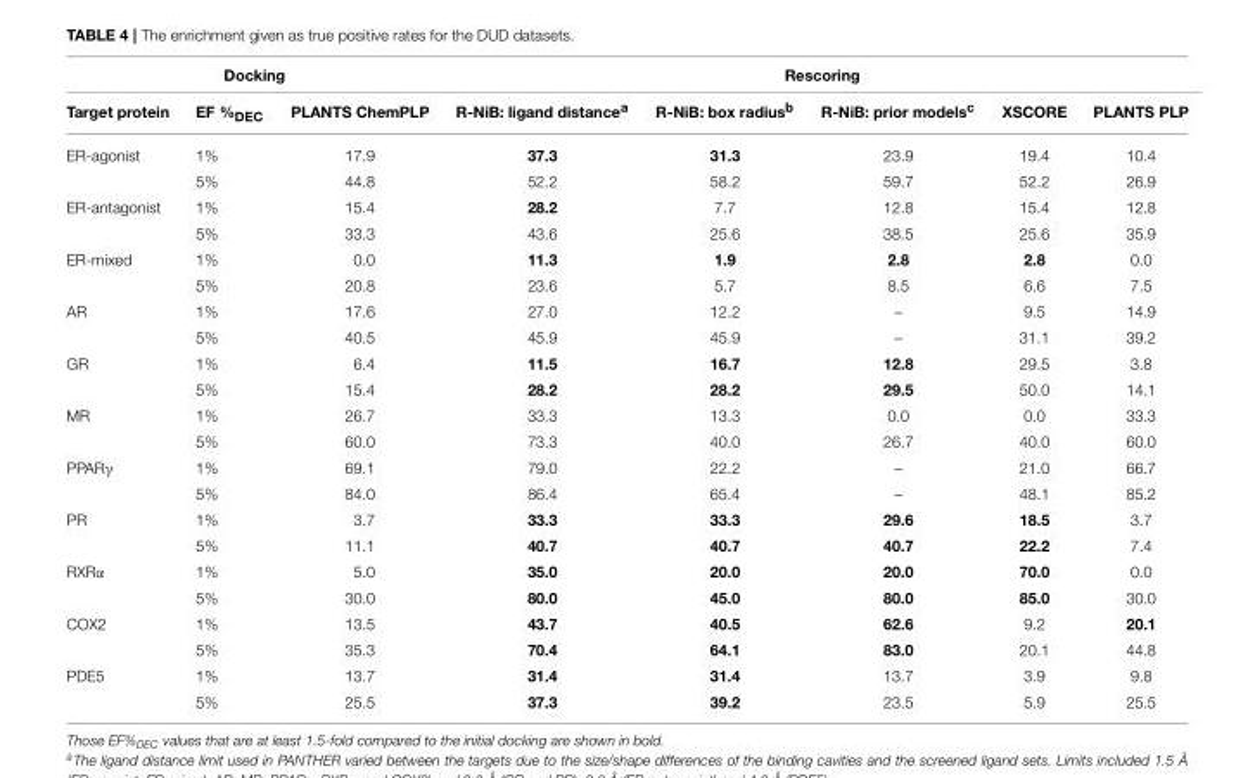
<table><thead><tr><td colspan="3">Docking</td><td colspan="5">Rescoring</td></tr><tr><td>Target protein</td><td>EF %<sub>DEC</sub></td><td>PLANTS ChemPLP</td><td>R-NiB: ligand distance<sup>a</sup></td><td>R-NiB: box radius<sup>b</sup></td><td>R-NiB: prior models<sup>c</sup></td><td>XSCORE</td><td>PLANTS PLP</td></tr></thead><tbody><tr><td rowspan="2">ER-agonist</td><td>1%</td><td>17.9</td><td>37.3</td><td>31.3</td><td>23.9</td><td>19.4</td><td>10.4</td></tr><tr><td>5%</td><td>44.8</td><td>52.2</td><td>58.2</td><td>59.7</td><td>52.2</td><td>26.9</td></tr><tr><td rowspan="2">ER-antagonist</td><td>1%</td><td>15.4</td><td>28.2</td><td>7.7</td><td>12.8</td><td>15.4</td><td>12.8</td></tr><tr><td>5%</td><td>33.3</td><td>43.6</td><td>25.6</td><td>38.5</td><td>25.6</td><td>35.9</td></tr><tr><td rowspan="2">ER-mixed</td><td>1%</td><td>0.0</td><td>11.3</td><td>1.9</td><td>2.8</td><td>2.8</td><td>0.0</td></tr><tr><td>5%</td><td>20.8</td><td>23.6</td><td>5.7</td><td>8.5</td><td>6.6</td><td>7.5</td></tr><tr><td rowspan="2">AR</td><td>1%</td><td>17.6</td><td>27.0</td><td>12.2</td><td>–</td><td>9.5</td><td>14.9</td></tr><tr><td>5%</td><td>40.5</td><td>45.9</td><td>45.9</td><td>–</td><td>31.1</td><td>39.2</td></tr><tr><td rowspan="2">GR</td><td>1%</td><td>6.4</td><td>11.5</td><td>16.7</td><td>12.8</td><td>29.5</td><td>3.8</td></tr><tr><td>5%</td><td>15.4</td><td>28.2</td><td>28.2</td><td>29.5</td><td>50.0</td><td>14.1</td></tr><tr><td rowspan="2">MR</td><td>1%</td><td>26.7</td><td>33.3</td><td>13.3</td><td>0.0</td><td>0.0</td><td>33.3</td></tr><tr><td>5%</td><td>60.0</td><td>73.3</td><td>40.0</td><td>26.7</td><td>40.0</td><td>60.0</td></tr><tr><td rowspan="2">PPARγ</td><td>1%</td><td>69.1</td><td>79.0</td><td>22.2</td><td>–</td><td>21.0</td><td>66.7</td></tr><tr><td>5%</td><td>84.0</td><td>86.4</td><td>65.4</td><td>–</td><td>48.1</td><td>85.2</td></tr><tr><td rowspan="2">PR</td><td>1%</td><td>3.7</td><td>33.3</td><td>33.3</td><td>29.6</td><td>18.5</td><td>3.7</td></tr><tr><td>5%</td><td>11.1</td><td>40.7</td><td>40.7</td><td>40.7</td><td>22.2</td><td>7.4</td></tr><tr><td rowspan="2">RXRα</td><td>1%</td><td>5.0</td><td>35.0</td><td>20.0</td><td>20.0</td><td>70.0</td><td>0.0</td></tr><tr><td>5%</td><td>30.0</td><td>80.0</td><td>45.0</td><td>80.0</td><td>85.0</td><td>30.0</td></tr><tr><td rowspan="2">COX2</td><td>1%</td><td>13.5</td><td>43.7</td><td>40.5</td><td>62.6</td><td>9.2</td><td>20.1</td></tr><tr><td>5%</td><td>35.3</td><td>70.4</td><td>64.1</td><td>83.0</td><td>20.1</td><td>44.8</td></tr><tr><td rowspan="2">PDE5</td><td>1%</td><td>13.7</td><td>31.4</td><td>31.4</td><td>13.7</td><td>3.9</td><td>9.8</td></tr><tr><td>5%</td><td>25.5</td><td>37.3</td><td>39.2</td><td>23.5</td><td>5.9</td><td>25.5</td></tr></tbody></table>